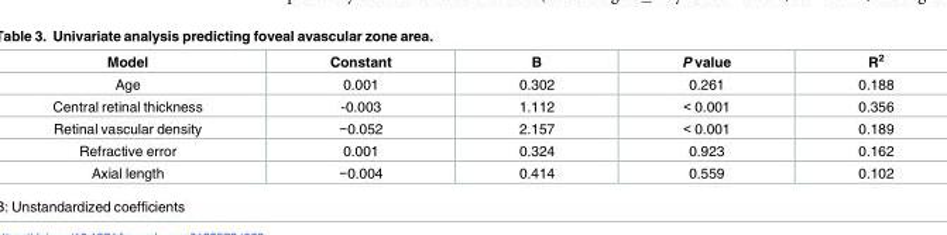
<table><thead><tr><td>Model</td><td>Constant</td><td>B</td><td>P value</td><td>R<sup>2</sup></td></tr></thead><tbody><tr><td>Age</td><td>0.001</td><td>0.302</td><td>0.261</td><td>0.188</td></tr><tr><td>Central retinal thickness</td><td>-0.003</td><td>1.112</td><td>&lt; 0.001</td><td>0.356</td></tr><tr><td>Retinal vascular density</td><td>−0.052</td><td>2.157</td><td>&lt; 0.001</td><td>0.189</td></tr><tr><td>Refractive error</td><td>0.001</td><td>0.324</td><td>0.923</td><td>0.162</td></tr><tr><td>Axial length</td><td>−0.004</td><td>0.414</td><td>0.559</td><td>0.102</td></tr></tbody></table>